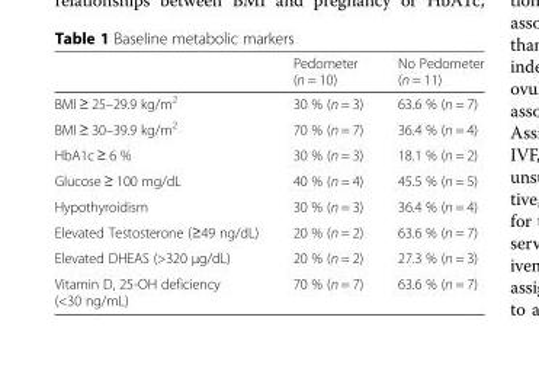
<table><thead><tr><td></td><td>Pedometer (n = 10)</td><td>No Pedometer (n = 11)</td></tr></thead><tbody><tr><td>BMI ≥ 25–29.9 kg/m<sup>2</sup></td><td>30 % (n = 3)</td><td>63.6 % (n = 7)</td></tr><tr><td>BMI ≥ 30–39.9 kg/m<sup>2</sup></td><td>70 % (n = 7)</td><td>36.4 % (n = 4)</td></tr><tr><td>HbA1c ≥ 6 %</td><td>30 % (n = 3)</td><td>18.1 % (n = 2)</td></tr><tr><td>Glucose ≥ 100 mg/dL</td><td>40 % (n = 4)</td><td>45.5 % (n = 5)</td></tr><tr><td>Hypothyroidism</td><td>30 % (n = 3)</td><td>36.4 % (n = 4)</td></tr><tr><td>Elevated Testosterone (≥49 ng/dL)</td><td>20 % (n = 2)</td><td>63.6 % (n = 7)</td></tr><tr><td>Elevated DHEAS (&gt;320 μg/dL)</td><td>20 % (n = 2)</td><td>27.3 % (n = 3)</td></tr><tr><td>Vitamin D, 25-OH deficiency (&lt;30 ng/mL)</td><td>70 % (n = 7)</td><td>63.6 % (n = 7)</td></tr></tbody></table>